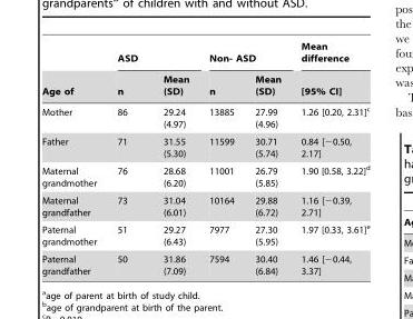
<table><thead><tr><td rowspan="2">Age of</td><td colspan="2">ASD</td><td colspan="2">Non- ASD</td><td rowspan="2">Mean difference [95% CI]</td></tr><tr><td>n</td><td>Mean (SD)</td><td>n</td><td>Mean (SD)</td></tr></thead><tbody><tr><td>Mother</td><td>86</td><td>29.24 (4.97)</td><td>13885</td><td>27.99 (4.96)</td><td>1.26 [0.20, 2.31]<sup>c</sup></td></tr><tr><td>Father</td><td>71</td><td>31.55 (5.30)</td><td>11599</td><td>30.71 (5.74)</td><td>0.84 [−0.50, 2.17]</td></tr><tr><td>Maternal grandmother</td><td>76</td><td>28.68 (6.20)</td><td>11001</td><td>26.79 (5.85)</td><td>1.90 [0.58, 3.22]<sup>d</sup></td></tr><tr><td>Maternal grandfather</td><td>73</td><td>31.04 (6.01)</td><td>10164</td><td>29.88 (6.72)</td><td>1.16 [−0.39, 2.71]</td></tr><tr><td>Paternal grandmother</td><td>51</td><td>29.27 (6.43)</td><td>7977</td><td>27.30 (5.95)</td><td>1.97 [0.33, 3.61]<sup>e</sup></td></tr><tr><td>Paternal grandfather</td><td>50</td><td>31.86 (7.09)</td><td>7594</td><td>30.40 (6.84)</td><td>1.46 [−0.44, 3.37]</td></tr></tbody></table>